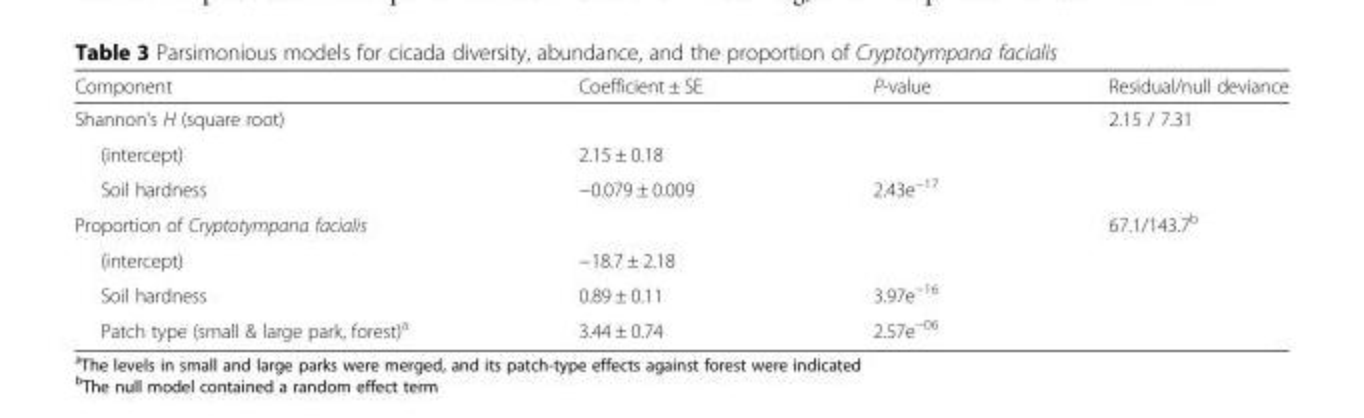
<table><thead><tr><td>Component</td><td>Coefficient ± SE</td><td>P-value</td><td>Residual/null deviance</td></tr></thead><tbody><tr><td>Shannon&#x27;s H (square root)</td><td></td><td></td><td>2.15 / 7.31</td></tr><tr><td>(intercept)</td><td>2.15 ± 0.18</td><td></td><td></td></tr><tr><td>Soil hardness</td><td>−0.079 ± 0.009</td><td>2.43e<sup>−17</sup></td><td></td></tr><tr><td>Proportion of Cryptotympana facialis</td><td></td><td></td><td>67.1/143.7<sup>b</sup></td></tr><tr><td>(intercept)</td><td>−18.7 ± 2.18</td><td></td><td></td></tr><tr><td>Soil hardness</td><td>0.89 ± 0.11</td><td>3.97e<sup>−16</sup></td><td></td></tr><tr><td>Patch type (small &amp; large park, forest)<sup>a</sup></td><td>3.44 ± 0.74</td><td>2.57e<sup>−06</sup></td><td></td></tr></tbody></table>